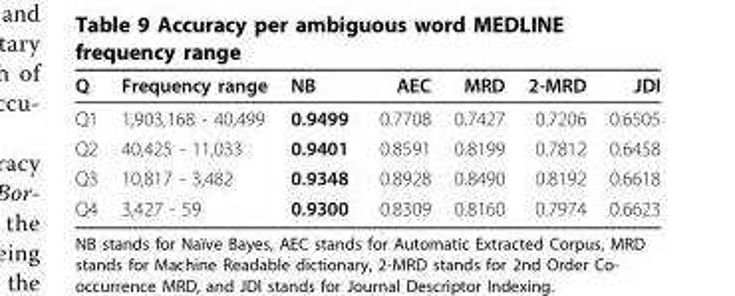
<table><thead><tr><td>Q</td><td>Frequency range</td><td>NB</td><td>AEC</td><td>MRD</td><td>2-MRD</td><td>JDI</td></tr></thead><tbody><tr><td>Q1</td><td>1,903,168 - 40,499</td><td>0.9499</td><td>0.7708</td><td>0.7427</td><td>0.7206</td><td>0.6505</td></tr><tr><td>Q2</td><td>40,425 - 11,033</td><td>0.9401</td><td>0.8591</td><td>0.8199</td><td>0.7812</td><td>0.6458</td></tr><tr><td>Q3</td><td>10,817 - 3,482</td><td>0.9348</td><td>0.8928</td><td>0.8490</td><td>0.8192</td><td>0.6618</td></tr><tr><td>Q4</td><td>3,427 - 59</td><td>0.9300</td><td>0.8309</td><td>0.8160</td><td>0.7974</td><td>0.6623</td></tr></tbody></table>